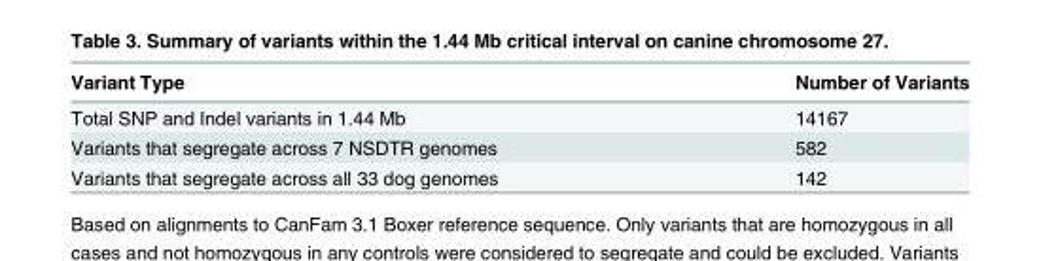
<table><thead><tr><td>Variant Type</td><td>Number of Variants</td></tr></thead><tbody><tr><td>Total SNP and Indel variants in 1.44 Mb</td><td>14167</td></tr><tr><td>Variants that segregate across 7 NSDTR genomes</td><td>582</td></tr><tr><td>Variants that segregate across all 33 dog genomes</td><td>142</td></tr></tbody></table>